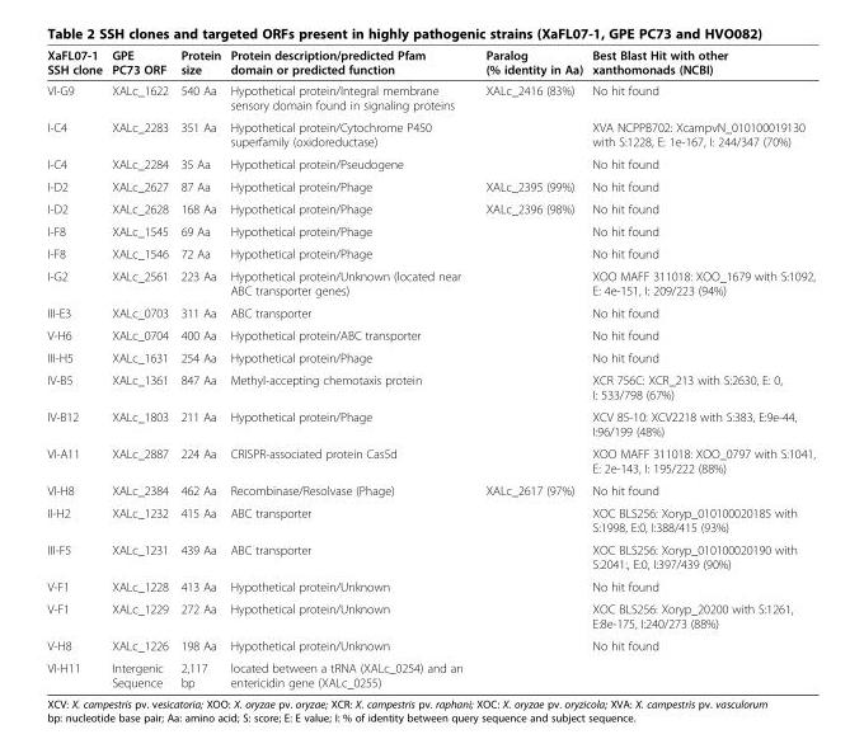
<table><thead><tr><td>XaFL07-1 SSH clone</td><td>GPE PC73 ORF</td><td>Protein size</td><td>Protein description/predicted Pfam domain or predicted function</td><td>Paralog (% identity in Aa)</td><td>Best Blast Hit with other xanthomonads (NCBI)</td></tr></thead><tbody><tr><td>VI-G9</td><td>XALc_1622</td><td>540 Aa</td><td>Hypothetical protein/Integral membrane sensory domain found in signaling proteins</td><td>XALc_2416 (83%)</td><td>No hit found</td></tr><tr><td>I-C4</td><td>XALc_2283</td><td>351 Aa</td><td>Hypothetical protein/Cytochrome P450 superfamily (oxidoreductase)</td><td></td><td>XVA NCPPB702: XcampvN_010100019130 with S:1228, E: 1e-167, I: 244/347 (70%)</td></tr><tr><td>I-C4</td><td>XALc_2284</td><td>35 Aa</td><td>Hypothetical protein/Pseudogene</td><td></td><td>No hit found</td></tr><tr><td>I-D2</td><td>XALc_2627</td><td>87 Aa</td><td>Hypothetical protein/Phage</td><td>XALc_2395 (99%)</td><td>No hit found</td></tr><tr><td>I-D2</td><td>XALc_2628</td><td>168 Aa</td><td>Hypothetical protein/Phage</td><td>XALc_2396 (98%)</td><td>No hit found</td></tr><tr><td>I-F8</td><td>XALc_1545</td><td>69 Aa</td><td>Hypothetical protein/Phage</td><td></td><td>No hit found</td></tr><tr><td>I-F8</td><td>XALc_1546</td><td>72 Aa</td><td>Hypothetical protein/Phage</td><td></td><td>No hit found</td></tr><tr><td>I-G2</td><td>XALc_2561</td><td>223 Aa</td><td>Hypothetical protein/Unknown (located near ABC transporter genes)</td><td></td><td>XOO MAFF 311018: XOO_1679 with S:1092, E: 4e-151, I: 209/223 (94%)</td></tr><tr><td>III-E3</td><td>XALc_0703</td><td>311 Aa</td><td>ABC transporter</td><td></td><td>No hit found</td></tr><tr><td>V-H6</td><td>XALc_0704</td><td>400 Aa</td><td>Hypothetical protein/ABC transporter</td><td></td><td>No hit found</td></tr><tr><td>III-H5</td><td>XALc_1631</td><td>254 Aa</td><td>Hypothetical protein/Phage</td><td></td><td>No hit found</td></tr><tr><td>IV-B5</td><td>XALc_1361</td><td>847 Aa</td><td>Methyl-accepting chemotaxis protein</td><td></td><td>XCR 756C: XCR_213 with S:2630, E: 0, I: 533/798 (67%)</td></tr><tr><td>IV-B12</td><td>XALc_1803</td><td>211 Aa</td><td>Hypothetical protein/Phage</td><td></td><td>XCV 85-10: XCV2218 with S:383, E:9e-44, I:96/199 (48%)</td></tr><tr><td>VI-A11</td><td>XALc_2887</td><td>224 Aa</td><td>CRISPR-associated protein Cas5d</td><td></td><td>XOO MAFF 311018: XOO_0797 with S:1041, E: 2e-143, I: 195/222 (88%)</td></tr><tr><td>VI-H8</td><td>XALc_2384</td><td>462 Aa</td><td>Recombinase/Resolvase (Phage)</td><td>XALc_2617 (97%)</td><td>No hit found</td></tr><tr><td>II-H2</td><td>XALc_1232</td><td>415 Aa</td><td>ABC transporter</td><td></td><td>XOC BLS256: Xoryp_010100020185 with S:1998, E:0, I:388/415 (93%)</td></tr><tr><td>III-F5</td><td>XALc_1231</td><td>439 Aa</td><td>ABC transporter</td><td></td><td>XOC BLS256: Xoryp_010100020190 with S:2041:, E:0, I:397/439 (90%)</td></tr><tr><td>V-F1</td><td>XALc_1228</td><td>413 Aa</td><td>Hypothetical protein/Unknown</td><td></td><td>No hit found</td></tr><tr><td>V-F1</td><td>XALc_1229</td><td>272 Aa</td><td>Hypothetical protein/Unknown</td><td></td><td>XOC BLS256: Xoryp_20200 with S:1261, E:8e-175, I:240/273 (88%)</td></tr><tr><td>V-H8</td><td>XALc_1226</td><td>198 Aa</td><td>Hypothetical protein/Unknown</td><td></td><td>No hit found</td></tr><tr><td>VI-H11</td><td>Intergenic Sequence</td><td>2,117 bp</td><td>located between a tRNA (XALc_0254) and an entericidin gene (XALc_0255)</td><td></td><td></td></tr></tbody></table>